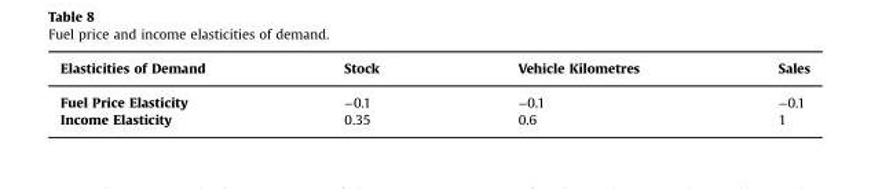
<table><thead><tr><td>Elasticities of Demand</td><td>Stock</td><td>Vehicle Kilometres</td><td>Sales</td></tr></thead><tbody><tr><td>Fuel Price Elasticity</td><td>−0.1</td><td>−0.1</td><td>−0.1</td></tr><tr><td>Income Elasticity</td><td>0.35</td><td>0.6</td><td>1</td></tr></tbody></table>